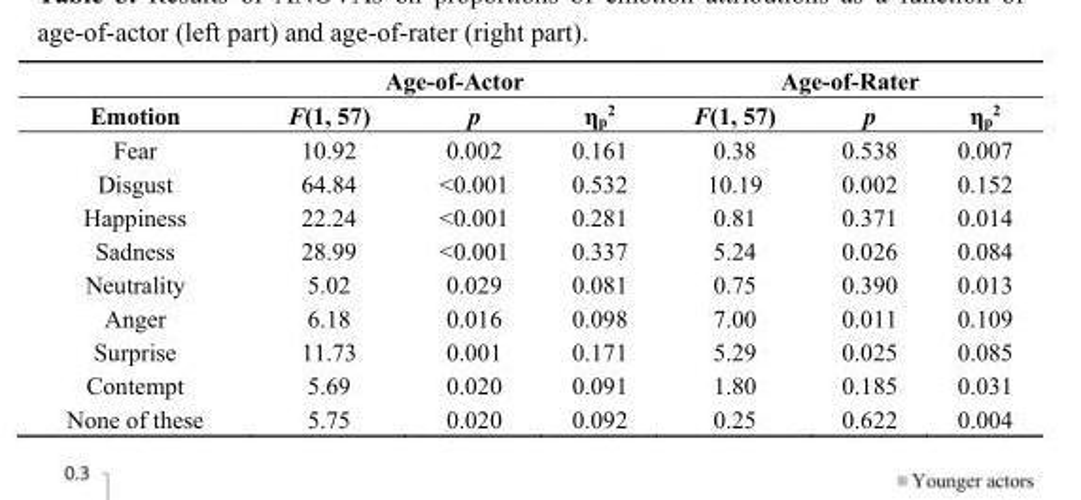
<table><thead><tr><td rowspan="2">Emotion</td><td colspan="3">Age-of-Actor</td><td colspan="3">Age-of-Rater</td></tr><tr><td>F(1, 57)</td><td>p</td><td>η<sub>p</sub><sup>2</sup></td><td>F(1, 57)</td><td>p</td><td>η<sub>p</sub><sup>2</sup></td></tr></thead><tbody><tr><td>Fear</td><td>10.92</td><td>0.002</td><td>0.161</td><td>0.38</td><td>0.538</td><td>0.007</td></tr><tr><td>Disgust</td><td>64.84</td><td>&lt;0.001</td><td>0.532</td><td>10.19</td><td>0.002</td><td>0.152</td></tr><tr><td>Happiness</td><td>22.24</td><td>&lt;0.001</td><td>0.281</td><td>0.81</td><td>0.371</td><td>0.014</td></tr><tr><td>Sadness</td><td>28.99</td><td>&lt;0.001</td><td>0.337</td><td>5.24</td><td>0.026</td><td>0.084</td></tr><tr><td>Neutrality</td><td>5.02</td><td>0.029</td><td>0.081</td><td>0.75</td><td>0.390</td><td>0.013</td></tr><tr><td>Anger</td><td>6.18</td><td>0.016</td><td>0.098</td><td>7.00</td><td>0.011</td><td>0.109</td></tr><tr><td>Surprise</td><td>11.73</td><td>0.001</td><td>0.171</td><td>5.29</td><td>0.025</td><td>0.085</td></tr><tr><td>Contempt</td><td>5.69</td><td>0.020</td><td>0.091</td><td>1.80</td><td>0.185</td><td>0.031</td></tr><tr><td>None of these</td><td>5.75</td><td>0.020</td><td>0.092</td><td>0.25</td><td>0.622</td><td>0.004</td></tr></tbody></table>